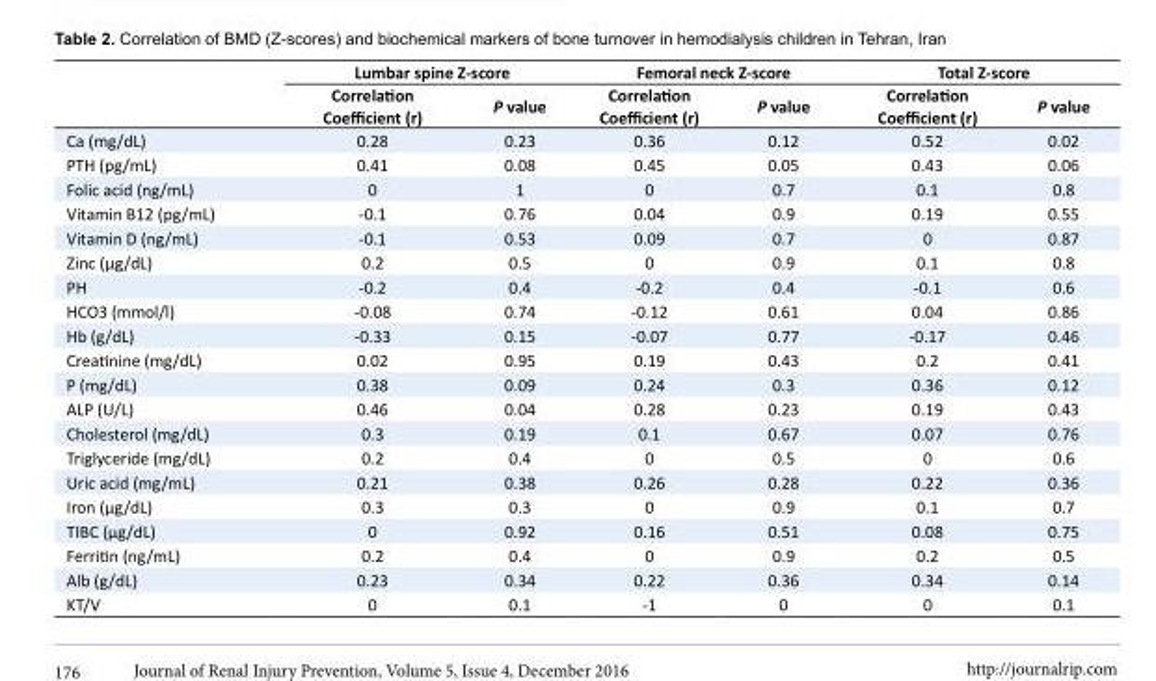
<table><thead><tr><td rowspan="2"></td><td colspan="2">Lumbar spine Z-score</td><td colspan="2">Femoral neck Z-score</td><td colspan="2">Total Z-score</td></tr><tr><td>Correlation Coefficient (r)</td><td>P value</td><td>Correlation Coefficient (r)</td><td>P value</td><td>Correlation Coefficient (r)</td><td>P value</td></tr></thead><tbody><tr><td>Ca (mg/dL)</td><td>0.28</td><td>0.23</td><td>0.36</td><td>0.12</td><td>0.52</td><td>0.02</td></tr><tr><td>PTH (pg/mL)</td><td>0.41</td><td>0.08</td><td>0.45</td><td>0.05</td><td>0.43</td><td>0.06</td></tr><tr><td>Folic acid (ng/mL)</td><td>0</td><td>1</td><td>0</td><td>0.7</td><td>0.1</td><td>0.8</td></tr><tr><td>Vitamin B12 (pg/mL)</td><td>-0.1</td><td>0.76</td><td>0.04</td><td>0.9</td><td>0.19</td><td>0.55</td></tr><tr><td>Vitamin D (ng/mL)</td><td>-0.1</td><td>0.53</td><td>0.09</td><td>0.7</td><td>0</td><td>0.87</td></tr><tr><td>Zinc (µg/dL)</td><td>0.2</td><td>0.5</td><td>0</td><td>0.9</td><td>0.1</td><td>0.8</td></tr><tr><td>PH</td><td>-0.2</td><td>0.4</td><td>-0.2</td><td>0.4</td><td>-0.1</td><td>0.6</td></tr><tr><td>HCO3 (mmol/l)</td><td>-0.08</td><td>0.74</td><td>-0.12</td><td>0.61</td><td>0.04</td><td>0.86</td></tr><tr><td>Hb (g/dL)</td><td>-0.33</td><td>0.15</td><td>-0.07</td><td>0.77</td><td>-0.17</td><td>0.46</td></tr><tr><td>Creatinine (mg/dL)</td><td>0.02</td><td>0.95</td><td>0.19</td><td>0.43</td><td>0.2</td><td>0.41</td></tr><tr><td>P (mg/dL)</td><td>0.38</td><td>0.09</td><td>0.24</td><td>0.3</td><td>0.36</td><td>0.12</td></tr><tr><td>ALP (U/L)</td><td>0.46</td><td>0.04</td><td>0.28</td><td>0.23</td><td>0.19</td><td>0.43</td></tr><tr><td>Cholesterol (mg/dL)</td><td>0.3</td><td>0.19</td><td>0.1</td><td>0.67</td><td>0.07</td><td>0.76</td></tr><tr><td>Triglyceride (mg/dL)</td><td>0.2</td><td>0.4</td><td>0</td><td>0.5</td><td>0</td><td>0.6</td></tr><tr><td>Uric acid (mg/mL)</td><td>0.21</td><td>0.38</td><td>0.26</td><td>0.28</td><td>0.22</td><td>0.36</td></tr><tr><td>Iron (µg/dL)</td><td>0.3</td><td>0.3</td><td>0</td><td>0.9</td><td>0.1</td><td>0.7</td></tr><tr><td>TIBC (µg/dL)</td><td>0</td><td>0.92</td><td>0.16</td><td>0.51</td><td>0.08</td><td>0.75</td></tr><tr><td>Ferritin (ng/mL)</td><td>0.2</td><td>0.4</td><td>0</td><td>0.9</td><td>0.2</td><td>0.5</td></tr><tr><td>Alb (g/dL)</td><td>0.23</td><td>0.34</td><td>0.22</td><td>0.36</td><td>0.34</td><td>0.14</td></tr><tr><td>KT/V</td><td>0</td><td>0.1</td><td>-1</td><td>0</td><td>0</td><td>0.1</td></tr></tbody></table>